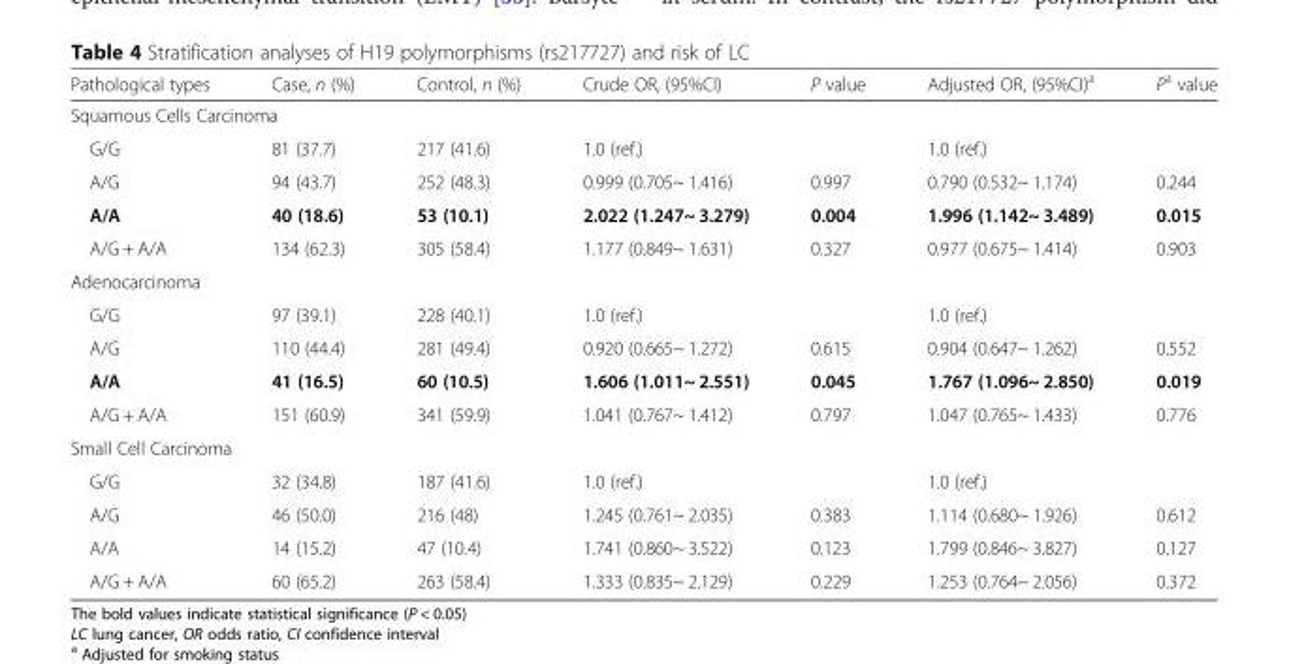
<table><thead><tr><td>Pathological types</td><td>Case, n (%)</td><td>Control, n (%)</td><td>Crude OR, (95%CI)</td><td>P value</td><td>Adjusted OR, (95%CI)<sup>a</sup></td><td>P<sup>a</sup> value</td></tr></thead><tbody><tr><td colspan="7">Squamous Cells Carcinoma</td></tr><tr><td>G/G</td><td>81 (37.7)</td><td>217 (41.6)</td><td>1.0 (ref.)</td><td></td><td>1.0 (ref.)</td><td></td></tr><tr><td>A/G</td><td>94 (43.7)</td><td>252 (48.3)</td><td>0.999 (0.705~ 1.416)</td><td>0.997</td><td>0.790 (0.532~ 1.174)</td><td>0.244</td></tr><tr><td>A/A</td><td>40 (18.6)</td><td>53 (10.1)</td><td>2.022 (1.247~ 3.279)</td><td>0.004</td><td>1.996 (1.142~ 3.489)</td><td>0.015</td></tr><tr><td>A/G + A/A</td><td>134 (62.3)</td><td>305 (58.4)</td><td>1.177 (0.849~ 1.631)</td><td>0.327</td><td>0.977 (0.675~ 1.414)</td><td>0.903</td></tr><tr><td colspan="7">Adenocarcinoma</td></tr><tr><td>G/G</td><td>97 (39.1)</td><td>228 (40.1)</td><td>1.0 (ref.)</td><td></td><td>1.0 (ref.)</td><td></td></tr><tr><td>A/G</td><td>110 (44.4)</td><td>281 (49.4)</td><td>0.920 (0.665~ 1.272)</td><td>0.615</td><td>0.904 (0.647~ 1.262)</td><td>0.552</td></tr><tr><td>A/A</td><td>41 (16.5)</td><td>60 (10.5)</td><td>1.606 (1.011~ 2.551)</td><td>0.045</td><td>1.767 (1.096~ 2.850)</td><td>0.019</td></tr><tr><td>A/G + A/A</td><td>151 (60.9)</td><td>341 (59.9)</td><td>1.041 (0.767~ 1.412)</td><td>0.797</td><td>1.047 (0.765~ 1.433)</td><td>0.776</td></tr><tr><td colspan="7">Small Cell Carcinoma</td></tr><tr><td>G/G</td><td>32 (34.8)</td><td>187 (41.6)</td><td>1.0 (ref.)</td><td></td><td>1.0 (ref.)</td><td></td></tr><tr><td>A/G</td><td>46 (50.0)</td><td>216 (48)</td><td>1.245 (0.761~ 2.035)</td><td>0.383</td><td>1.114 (0.680~ 1.926)</td><td>0.612</td></tr><tr><td>A/A</td><td>14 (15.2)</td><td>47 (10.4)</td><td>1.741 (0.860~ 3.522)</td><td>0.123</td><td>1.799 (0.846~ 3.827)</td><td>0.127</td></tr><tr><td>A/G + A/A</td><td>60 (65.2)</td><td>263 (58.4)</td><td>1.333 (0.835~ 2.129)</td><td>0.229</td><td>1.253 (0.764~ 2.056)</td><td>0.372</td></tr></tbody></table>